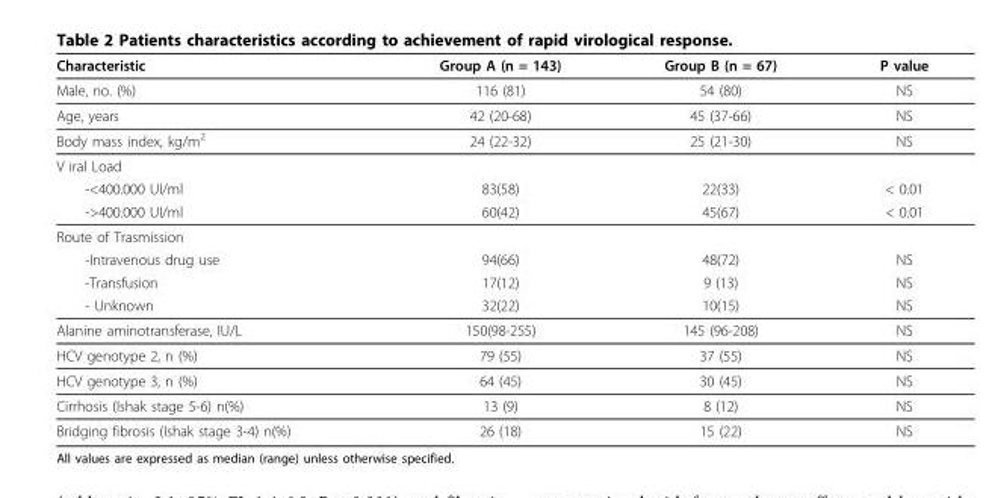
<table><thead><tr><td>Characteristic</td><td>Group A (n = 143)</td><td>Group B (n = 67)</td><td>P value</td></tr></thead><tbody><tr><td>Male, no. (%)</td><td>116 (81)</td><td>54 (80)</td><td>NS</td></tr><tr><td>Age, years</td><td>42 (20-68)</td><td>45 (37-66)</td><td>NS</td></tr><tr><td>Body mass index, kg/m<sup>2</sup></td><td>24 (22-32)</td><td>25 (21-30)</td><td>NS</td></tr><tr><td colspan="4">V iral Load</td></tr><tr><td>-&lt;400.000 UI/ml</td><td>83(58)</td><td>22(33)</td><td>&lt; 0.01</td></tr><tr><td>-&gt;400.000 UI/ml</td><td>60(42)</td><td>45(67)</td><td>&lt; 0.01</td></tr><tr><td colspan="4">Route of Trasmission</td></tr><tr><td>-Intravenous drug use</td><td>94(66)</td><td>48(72)</td><td>NS</td></tr><tr><td>-Transfusion</td><td>17(12)</td><td>9 (13)</td><td>NS</td></tr><tr><td>- Unknown</td><td>32(22)</td><td>10(15)</td><td>NS</td></tr><tr><td>Alanine aminotransferase, IU/L</td><td>150(98-255)</td><td>145 (96-208)</td><td>NS</td></tr><tr><td>HCV genotype 2, n (%)</td><td>79 (55)</td><td>37 (55)</td><td>NS</td></tr><tr><td>HCV genotype 3, n (%)</td><td>64 (45)</td><td>30 (45)</td><td>NS</td></tr><tr><td>Cirrhosis (Ishak stage 5-6) n(%)</td><td>13 (9)</td><td>8 (12)</td><td>NS</td></tr><tr><td>Bridging fibrosis (Ishak stage 3-4) n(%)</td><td>26 (18)</td><td>15 (22)</td><td>NS</td></tr></tbody></table>